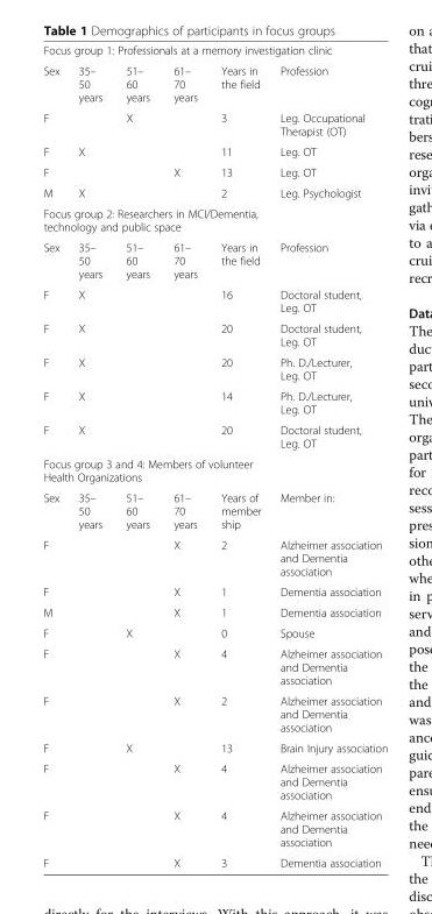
<table><tbody><tr><td colspan="6">Focus group 1: Professionals at a memory investigation clinic</td></tr><tr><td>Sex</td><td>35– 50 years</td><td>51– 60 years</td><td>61– 70 years</td><td>Years in the field</td><td>Profession</td></tr><tr><td>F</td><td></td><td>X</td><td></td><td>3</td><td>Leg. Occupational Therapist (OT)</td></tr><tr><td>F</td><td>X</td><td></td><td></td><td>11</td><td>Leg. OT</td></tr><tr><td>F</td><td></td><td></td><td>X</td><td>13</td><td>Leg. OT</td></tr><tr><td>M</td><td>X</td><td></td><td></td><td>2</td><td>Leg. Psychologist</td></tr><tr><td colspan="6">Focus group 2: Researchers in MCI/Dementia, technology and public space</td></tr><tr><td>Sex</td><td>35– 50 years</td><td>51– 60 years</td><td>61– 70 years</td><td>Years in the field</td><td>Profession</td></tr><tr><td>F</td><td>X</td><td></td><td></td><td>16</td><td>Doctoral student, Leg. OT</td></tr><tr><td>F</td><td>X</td><td></td><td></td><td>20</td><td>Doctoral student, Leg. OT</td></tr><tr><td>F</td><td>X</td><td></td><td></td><td>20</td><td>Ph. D./Lecturer, Leg. OT</td></tr><tr><td>F</td><td>X</td><td></td><td></td><td>14</td><td>Ph. D./Lecturer, Leg. OT</td></tr><tr><td>F</td><td>X</td><td></td><td></td><td>20</td><td>Doctoral student, Leg. OT</td></tr><tr><td colspan="6">Focus group 3 and 4: Members of volunteer Health Organizations</td></tr><tr><td>Sex</td><td>35– 50 years</td><td>51– 60 years</td><td>61– 70 years</td><td>Years of member ship</td><td>Member in:</td></tr><tr><td>F</td><td></td><td></td><td>X</td><td>2</td><td>Alzheimer association and Dementia association</td></tr><tr><td>F</td><td></td><td></td><td>X</td><td>1</td><td>Dementia association</td></tr><tr><td>M</td><td></td><td></td><td>X</td><td>1</td><td>Dementia association</td></tr><tr><td>F</td><td></td><td>X</td><td></td><td>0</td><td>Spouse</td></tr><tr><td>F</td><td></td><td></td><td>X</td><td>4</td><td>Alzheimer association and Dementia association</td></tr><tr><td>F</td><td></td><td></td><td>X</td><td>2</td><td>Alzheimer association and Dementia association</td></tr><tr><td>F</td><td></td><td>X</td><td></td><td>13</td><td>Brain Injury association</td></tr><tr><td>F</td><td></td><td></td><td>X</td><td>4</td><td>Alzheimer association and Dementia association</td></tr><tr><td>F</td><td></td><td></td><td>X</td><td>4</td><td>Alzheimer association and Dementia association</td></tr><tr><td>F</td><td></td><td></td><td>X</td><td>3</td><td>Dementia association</td></tr></tbody></table>